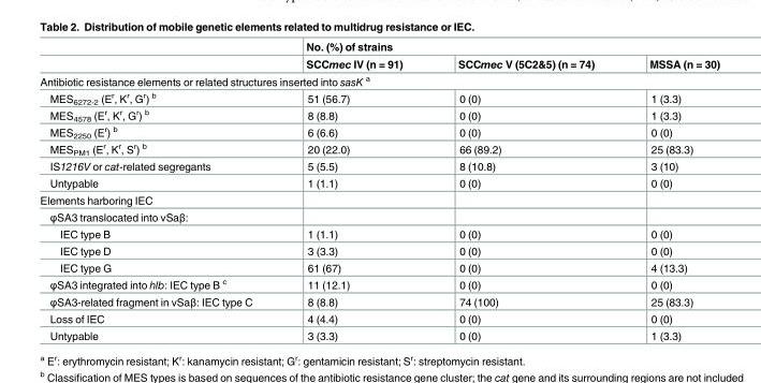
<table><thead><tr><td rowspan="2"></td><td colspan="3">No. (%) of strains</td></tr><tr><td>SCCmec IV (n = 91)</td><td>SCCmec V (5C2&amp;5) (n = 74)</td><td>MSSA (n = 30)</td></tr></thead><tbody><tr><td colspan="4">Antibiotic resistance elements or related structures inserted into sasK <sup>a</sup></td></tr><tr><td>MES<sub>6272-2</sub> (E<sup>r</sup>, K<sup>r</sup>, G<sup>r</sup>) <sup>b</sup></td><td>51 (56.7)</td><td>0 (0)</td><td>1 (3.3)</td></tr><tr><td>MES<sub>4578</sub> (E<sup>r</sup>, K<sup>r</sup>, G<sup>r</sup>) <sup>b</sup></td><td>8 (8.8)</td><td>0 (0)</td><td>1 (3.3)</td></tr><tr><td>MES<sub>2250</sub> (E<sup>r</sup>) <sup>b</sup></td><td>6 (6.6)</td><td>0 (0)</td><td>0 (0)</td></tr><tr><td>MES<sub>PM1</sub> (E<sup>r</sup>, K<sup>r</sup>, S<sup>r</sup>) <sup>b</sup></td><td>20 (22.0)</td><td>66 (89.2)</td><td>25 (83.3)</td></tr><tr><td>IS1216V or cat-related segregants</td><td>5 (5.5)</td><td>8 (10.8)</td><td>3 (10)</td></tr><tr><td>Untypable</td><td>1 (1.1)</td><td>0 (0)</td><td>0 (0)</td></tr><tr><td colspan="4">Elements harboring IEC</td></tr><tr><td colspan="4">φSA3 translocated into νSaβ:</td></tr><tr><td>IEC type B</td><td>1 (1.1)</td><td>0 (0)</td><td>0 (0)</td></tr><tr><td>IEC type D</td><td>3 (3.3)</td><td>0 (0)</td><td>0 (0)</td></tr><tr><td>IEC type G</td><td>61 (67)</td><td>0 (0)</td><td>4 (13.3)</td></tr><tr><td>φSA3 integrated into hlb: IEC type B <sup>c</sup></td><td>11 (12.1)</td><td>0 (0)</td><td>0 (0)</td></tr><tr><td>φSA3-related fragment in νSaβ: IEC type C</td><td>8 (8.8)</td><td>74 (100)</td><td>25 (83.3)</td></tr><tr><td>Loss of IEC</td><td>4 (4.4)</td><td>0 (0)</td><td>0 (0)</td></tr><tr><td>Untypable</td><td>3 (3.3)</td><td>0 (0)</td><td>1 (3.3)</td></tr></tbody></table>